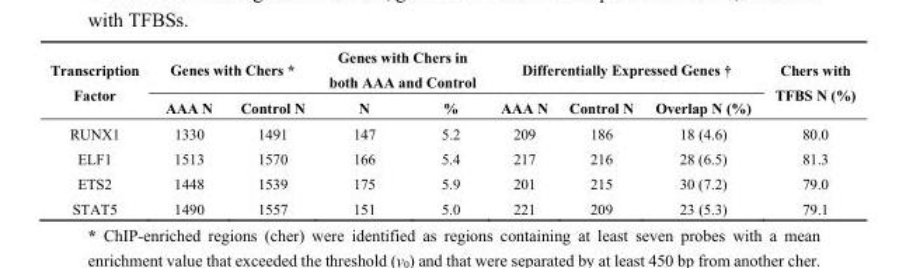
<table><thead><tr><td rowspan="2">Transcription Factor</td><td colspan="2">Genes with Chers *</td><td colspan="2">Genes with Chers in both AAA and Control</td><td colspan="3">Differentially Expressed Genes †</td><td rowspan="2">Chers with TFBS N (%)</td></tr><tr><td>AAA N</td><td>Control N</td><td>N</td><td>%</td><td>AAA N</td><td>Control N</td><td>Overlap N (%)</td></tr></thead><tbody><tr><td>RUNX1</td><td>1330</td><td>1491</td><td>147</td><td>5.2</td><td>209</td><td>186</td><td>18 (4.6)</td><td>80.0</td></tr><tr><td>ELF1</td><td>1513</td><td>1570</td><td>166</td><td>5.4</td><td>217</td><td>216</td><td>28 (6.5)</td><td>81.3</td></tr><tr><td>ETS2</td><td>1448</td><td>1539</td><td>175</td><td>5.9</td><td>201</td><td>215</td><td>30 (7.2)</td><td>79.0</td></tr><tr><td>STAT5</td><td>1490</td><td>1557</td><td>151</td><td>5.0</td><td>221</td><td>209</td><td>23 (5.3)</td><td>79.1</td></tr></tbody></table>